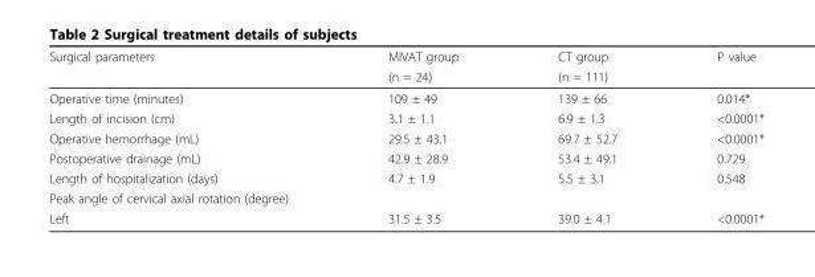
<table><thead><tr><td rowspan="2">Surgical parameters</td><td rowspan="2">MIVAT group (n = 24)</td><td rowspan="2">CT group (n = 111)</td><td rowspan="2">P value</td></tr><tr></tr></thead><tbody><tr><td>Operative time (minutes)</td><td>109 ± 49</td><td>139 ± 66</td><td>0.014*</td></tr><tr><td>Length of incision (cm)</td><td>3.1 ± 1.1</td><td>6.9 ± 1.3</td><td>&lt;0.0001*</td></tr><tr><td>Operative hemorrhage (mL)</td><td>29.5 ± 43.1</td><td>69.7 ± 52.7</td><td>&lt;0.0001*</td></tr><tr><td>Postoperative drainage (mL)</td><td>42.9 ± 28.9</td><td>53.4 ± 49.1</td><td>0.729</td></tr><tr><td>Length of hospitalization (days)</td><td>4.7 ± 1.9</td><td>5.5 ± 3.1</td><td>0.548</td></tr><tr><td colspan="4">Peak angle of cervical axial rotation (degree)</td></tr><tr><td>Left</td><td>31.5 ± 3.5</td><td>39.0 ± 4.1</td><td>&lt;0.0001*</td></tr></tbody></table>